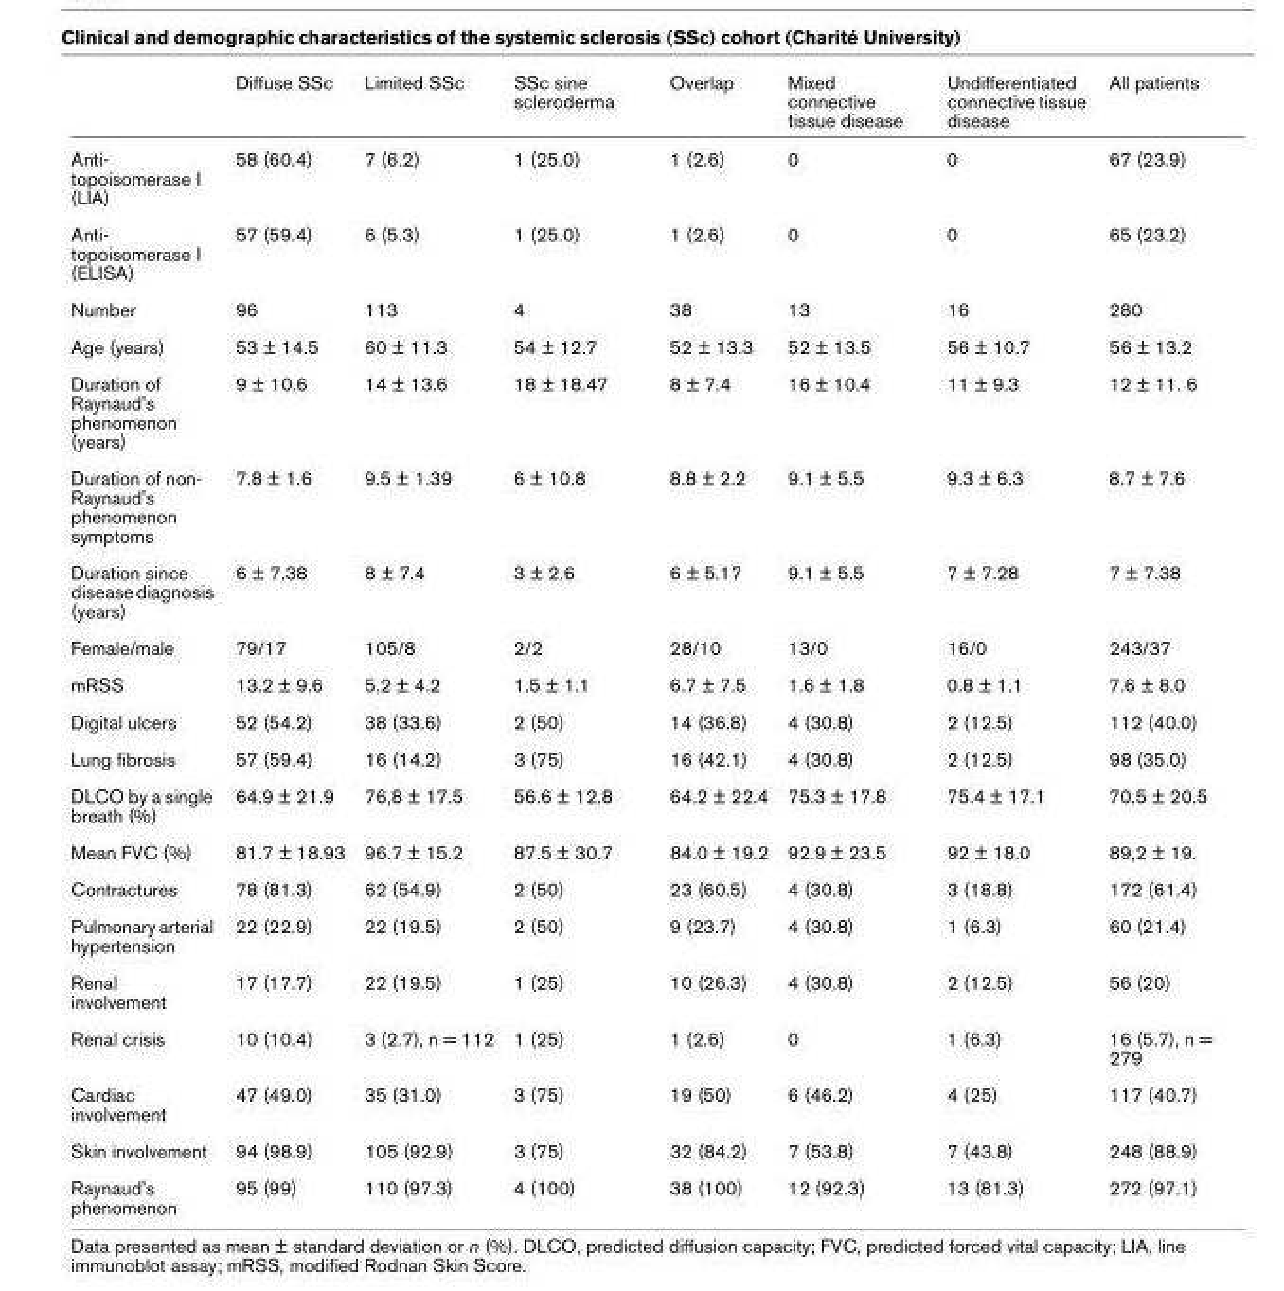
<table><thead><tr><td></td><td>Diffuse SSc</td><td>Limited SSc</td><td>SSc sine scleroderma</td><td>Overlap</td><td>Mixed connective tissue disease</td><td>Undifferentiated connective tissue disease</td><td>All patients</td></tr></thead><tbody><tr><td>Anti- topoisomerase I (LIA)</td><td>58 (60.4)</td><td>7 (6.2)</td><td>1 (25.0)</td><td>1 (2.6)</td><td>0</td><td>0</td><td>67 (23.9)</td></tr><tr><td>Anti- topoisomerase I (ELISA)</td><td>57 (59.4)</td><td>6 (5.3)</td><td>1 (25.0)</td><td>1 (2.6)</td><td>0</td><td>0</td><td>65 (23.2)</td></tr><tr><td>Number</td><td>96</td><td>113</td><td>4</td><td>38</td><td>13</td><td>16</td><td>280</td></tr><tr><td>Age (years)</td><td>53 ± 14.5</td><td>60 ± 11.3</td><td>54 ± 12.7</td><td>52 ± 13.3</td><td>52 ± 13.5</td><td>56 ± 10.7</td><td>56 ± 13.2</td></tr><tr><td>Duration of Raynaud&#x27;s phenomenon (years)</td><td>9 ± 10.6</td><td>14 ± 13.6</td><td>18 ± 18.47</td><td>8 ± 7.4</td><td>16 ± 10.4</td><td>11 ± 9.3</td><td>12 ± 11. 6</td></tr><tr><td>Duration of non- Raynaud&#x27;s phenomenon symptoms</td><td>7.8 ± 1.6</td><td>9.5 ± 1.39</td><td>6 ± 10.8</td><td>8.8 ± 2.2</td><td>9.1 ± 5.5</td><td>9.3 ± 6.3</td><td>8.7 ± 7.6</td></tr><tr><td>Duration since disease diagnosis (years)</td><td>6 ± 7.38</td><td>8 ± 7.4</td><td>3 ± 2.6</td><td>6 ± 5.17</td><td>9.1 ± 5.5</td><td>7 ± 7.28</td><td>7 ± 7.38</td></tr><tr><td>Female/male</td><td>79/17</td><td>105/8</td><td>2/2</td><td>28/10</td><td>13/0</td><td>16/0</td><td>243/37</td></tr><tr><td>mRSS</td><td>13.2 ± 9.6</td><td>5.2 ± 4.2</td><td>1.5 ± 1.1</td><td>6.7 ± 7.5</td><td>1.6 ± 1.8</td><td>0.8 ± 1.1</td><td>7.6 ± 8.0</td></tr><tr><td>Digital ulcers</td><td>52 (54.2)</td><td>38 (33.6)</td><td>2 (50)</td><td>14 (36.8)</td><td>4 (30.8)</td><td>2 (12.5)</td><td>112 (40.0)</td></tr><tr><td>Lung fibrosis</td><td>57 (59.4)</td><td>16 (14.2)</td><td>3 (75)</td><td>16 (42.1)</td><td>4 (30.8)</td><td>2 (12.5)</td><td>98 (35.0)</td></tr><tr><td>DLCO by a single breath (%)</td><td>64.9 ± 21.9</td><td>76,8 ± 17.5</td><td>56.6 ± 12.8</td><td>64.2 ± 22.4</td><td>75.3 ± 17.8</td><td>75.4 ± 17.1</td><td>70.5 ± 20.5</td></tr><tr><td>Mean FVC (%)</td><td>81.7 ± 18.93</td><td>96.7 ± 15.2</td><td>87.5 ± 30.7</td><td>84.0 ± 19.2</td><td>92.9 ± 23.5</td><td>92 ± 18.0</td><td>89,2 ± 19.</td></tr><tr><td>Contractures</td><td>78 (81.3)</td><td>62 (54.9)</td><td>2 (50)</td><td>23 (60.5)</td><td>4 (30.8)</td><td>3 (18.8)</td><td>172 (61.4)</td></tr><tr><td>Pulmonary arterial hypertension</td><td>22 (22.9)</td><td>22 (19.5)</td><td>2 (50)</td><td>9 (23.7)</td><td>4 (30.8)</td><td>1 (6.3)</td><td>60 (21.4)</td></tr><tr><td>Renal involvement</td><td>17 (17.7)</td><td>22 (19.5)</td><td>1 (25)</td><td>10 (26.3)</td><td>4 (30.8)</td><td>2 (12.5)</td><td>56 (20)</td></tr><tr><td>Renal crisis</td><td>10 (10.4)</td><td>3 (2.7), n = 112</td><td>1 (25)</td><td>1 (2.6)</td><td>0</td><td>1 (6.3)</td><td>16 (5.7), n = 279</td></tr><tr><td>Cardiac involvement</td><td>47 (49.0)</td><td>35 (31.0)</td><td>3 (75)</td><td>19 (50)</td><td>6 (46.2)</td><td>4 (25)</td><td>117 (40.7)</td></tr><tr><td>Skin involvement</td><td>94 (98.9)</td><td>105 (92.9)</td><td>3 (75)</td><td>32 (84.2)</td><td>7 (53.8)</td><td>7 (43.8)</td><td>248 (88.9)</td></tr><tr><td>Raynaud&#x27;s phenomenon</td><td>95 (99)</td><td>110 (97.3)</td><td>4 (100)</td><td>38 (100)</td><td>12 (92.3)</td><td>13 (81.3)</td><td>272 (97.1)</td></tr></tbody></table>